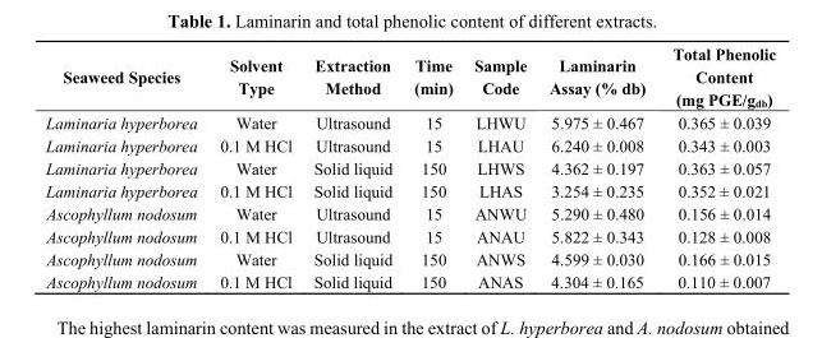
<table><thead><tr><td>Seaweed Species</td><td>Solvent Type</td><td>Extraction Method</td><td>Time (min)</td><td>Sample Code</td><td>Laminarin Assay (% db)</td><td>Total Phenolic Content (mg PGE/g<sub>db</sub>)</td></tr></thead><tbody><tr><td>Laminaria hyperborea</td><td>Water</td><td>Ultrasound</td><td>15</td><td>LHWU</td><td>5.975 ± 0.467</td><td>0.365 ± 0.039</td></tr><tr><td>Laminaria hyperborea</td><td>0.1 M HCl</td><td>Ultrasound</td><td>15</td><td>LHAU</td><td>6.240 ± 0.008</td><td>0.343 ± 0.003</td></tr><tr><td>Laminaria hyperborea</td><td>Water</td><td>Solid liquid</td><td>150</td><td>LHWS</td><td>4.362 ± 0.197</td><td>0.363 ± 0.057</td></tr><tr><td>Laminaria hyperborea</td><td>0.1 M HCl</td><td>Solid liquid</td><td>150</td><td>LHAS</td><td>3.254 ± 0.235</td><td>0.352 ± 0.021</td></tr><tr><td>Ascophyllum nodosum</td><td>Water</td><td>Ultrasound</td><td>15</td><td>ANWU</td><td>5.290 ± 0.480</td><td>0.156 ± 0.014</td></tr><tr><td>Ascophyllum nodosum</td><td>0.1 M HCl</td><td>Ultrasound</td><td>15</td><td>ANAU</td><td>5.822 ± 0.343</td><td>0.128 ± 0.008</td></tr><tr><td>Ascophyllum nodosum</td><td>Water</td><td>Solid liquid</td><td>150</td><td>ANWS</td><td>4.599 ± 0.030</td><td>0.166 ± 0.015</td></tr><tr><td>Ascophyllum nodosum</td><td>0.1 M HCl</td><td>Solid liquid</td><td>150</td><td>ANAS</td><td>4.304 ± 0.165</td><td>0.110 ± 0.007</td></tr></tbody></table>